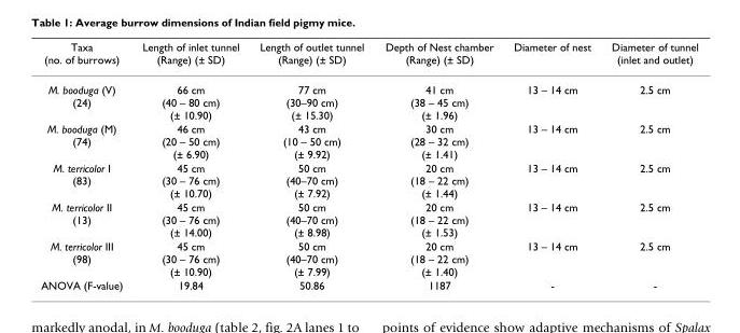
<table><thead><tr><td>Taxa (no. of burrows)</td><td>Length of inlet tunnel (Range) (± SD)</td><td>Length of outlet tunnel (Range) (± SD)</td><td>Depth of Nest chamber (Range) (± SD)</td><td>Diameter of nest</td><td>Diameter of tunnel (inlet and outlet)</td></tr></thead><tbody><tr><td>M. booduga (V) (24)</td><td>66 cm (40 – 80 cm) (± 10.90)</td><td>77 cm (30–90 cm) (± 15.30)</td><td>41 cm (38 – 45 cm) (± 1.96)</td><td>13 – 14 cm</td><td>2.5 cm</td></tr><tr><td>M. booduga (M) (74)</td><td>46 cm (20 – 50 cm) (± 6.90)</td><td>43 cm (10 – 50 cm) (± 9.92)</td><td>30 cm (28 – 32 cm) (± 1.41)</td><td>13 – 14 cm</td><td>2.5 cm</td></tr><tr><td>M. terricolor I (83)</td><td>45 cm (30 – 76 cm) (± 10.70)</td><td>50 cm (40–70 cm) (± 7.92)</td><td>20 cm (18 – 22 cm) (± 1.44)</td><td>13 – 14 cm</td><td>2.5 cm</td></tr><tr><td>M. terricolor II (13)</td><td>45 cm (30 – 76 cm) (± 14.00)</td><td>50 cm (40–70 cm) (± 8.98)</td><td>20 cm (18 – 22 cm) (± 1.53)</td><td>13 – 14 cm</td><td>2.5 cm</td></tr><tr><td>M. terricolor III (98)</td><td>45 cm (30 – 76 cm) (± 10.90)</td><td>50 cm (40–70 cm) (± 7.99)</td><td>20 cm (18 – 22 cm) (± 1.40)</td><td>13 – 14 cm</td><td>2.5 cm</td></tr><tr><td>ANOVA (F-value)</td><td>19.84</td><td>50.86</td><td>1187</td><td>-</td><td>-</td></tr></tbody></table>